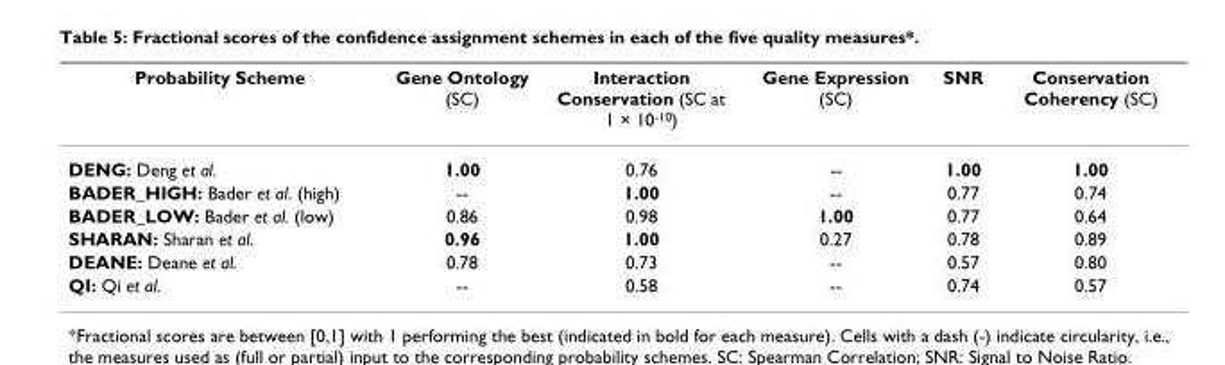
<table><thead><tr><td>Probability Scheme</td><td>Gene Ontology (SC)</td><td>Interaction Conservation (SC at 1 × 10-10)</td><td>Gene Expression (SC)</td><td>SNR</td><td>Conservation Coherency (SC)</td></tr></thead><tbody><tr><td>DENG: Deng et al.</td><td>1.00</td><td>0.76</td><td>--</td><td>1.00</td><td>1.00</td></tr><tr><td>BADER_HIGH: Bader et al. (high)</td><td>--</td><td>1.00</td><td>--</td><td>0.77</td><td>0.74</td></tr><tr><td>BADER_LOW: Bader et al. (low)</td><td>0.86</td><td>0.98</td><td>1.00</td><td>0.77</td><td>0.64</td></tr><tr><td>SHARAN: Sharan et al.</td><td>0.96</td><td>1.00</td><td>0.27</td><td>0.78</td><td>0.89</td></tr><tr><td>DEANE: Deane et al.</td><td>0.78</td><td>0.73</td><td>--</td><td>0.57</td><td>0.80</td></tr><tr><td>QI: Qi et al.</td><td>--</td><td>0.58</td><td>--</td><td>0.74</td><td>0.57</td></tr></tbody></table>